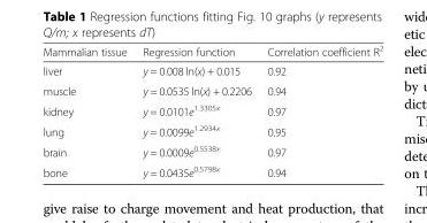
<table><thead><tr><td>Mammalian tissue</td><td>Regression function</td><td>Correlation coefficient R<sup>2</sup></td></tr></thead><tbody><tr><td>liver</td><td>y = 0.008 ln(x) + 0.015</td><td>0.92</td></tr><tr><td>muscle</td><td>y = 0.0535 ln(x) + 0.2206</td><td>0.94</td></tr><tr><td>kidney</td><td>y = 0.0101e<sup>1.3305x</sup></td><td>0.97</td></tr><tr><td>lung</td><td>y = 0.0099e<sup>1.2934x</sup></td><td>0.95</td></tr><tr><td>brain</td><td>y = 0.0009e<sup>0.5538x</sup></td><td>0.97</td></tr><tr><td>bone</td><td>y = 0.0435e<sup>0.5798x</sup></td><td>0.94</td></tr></tbody></table>